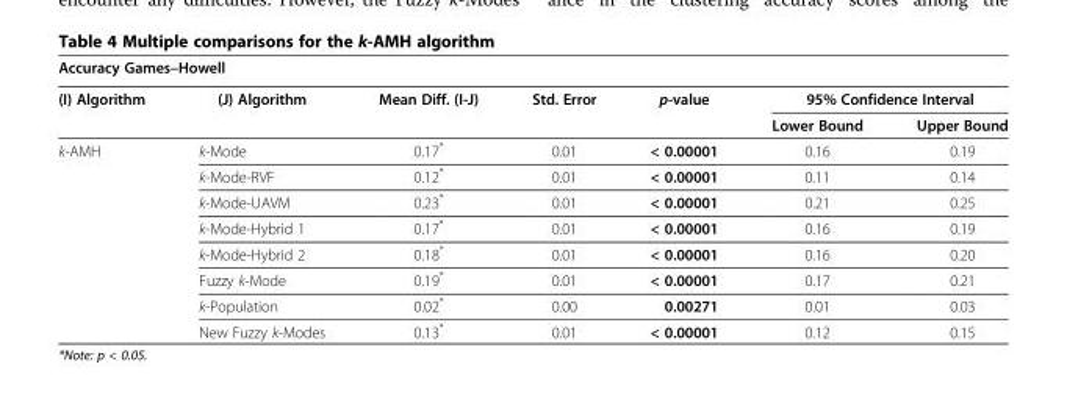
<table><thead><tr><td colspan="7">Accuracy Games–Howell</td></tr><tr><td>(I) Algorithm</td><td>(J) Algorithm</td><td>Mean Diff. (I-J)</td><td>Std. Error</td><td>p-value</td><td colspan="2">95% Confidence Interval</td></tr><tr><td colspan="5"></td><td>Lower Bound</td><td>Upper Bound</td></tr></thead><tbody><tr><td rowspan="8">k-AMH</td><td>k-Mode</td><td>0.17*</td><td>0.01</td><td>&lt; 0.00001</td><td>0.16</td><td>0.19</td></tr><tr><td>k-Mode-RVF</td><td>0.12*</td><td>0.01</td><td>&lt; 0.00001</td><td>0.11</td><td>0.14</td></tr><tr><td>k-Mode-UAVM</td><td>0.23*</td><td>0.01</td><td>&lt; 0.00001</td><td>0.21</td><td>0.25</td></tr><tr><td>k-Mode-Hybrid 1</td><td>0.17*</td><td>0.01</td><td>&lt; 0.00001</td><td>0.16</td><td>0.19</td></tr><tr><td>k-Mode-Hybrid 2</td><td>0.18*</td><td>0.01</td><td>&lt; 0.00001</td><td>0.16</td><td>0.20</td></tr><tr><td>Fuzzy k-Mode</td><td>0.19*</td><td>0.01</td><td>&lt; 0.00001</td><td>0.17</td><td>0.21</td></tr><tr><td>k-Population</td><td>0.02*</td><td>0.00</td><td>0.00271</td><td>0.01</td><td>0.03</td></tr><tr><td>New Fuzzy k-Modes</td><td>0.13*</td><td>0.01</td><td>&lt; 0.00001</td><td>0.12</td><td>0.15</td></tr></tbody></table>